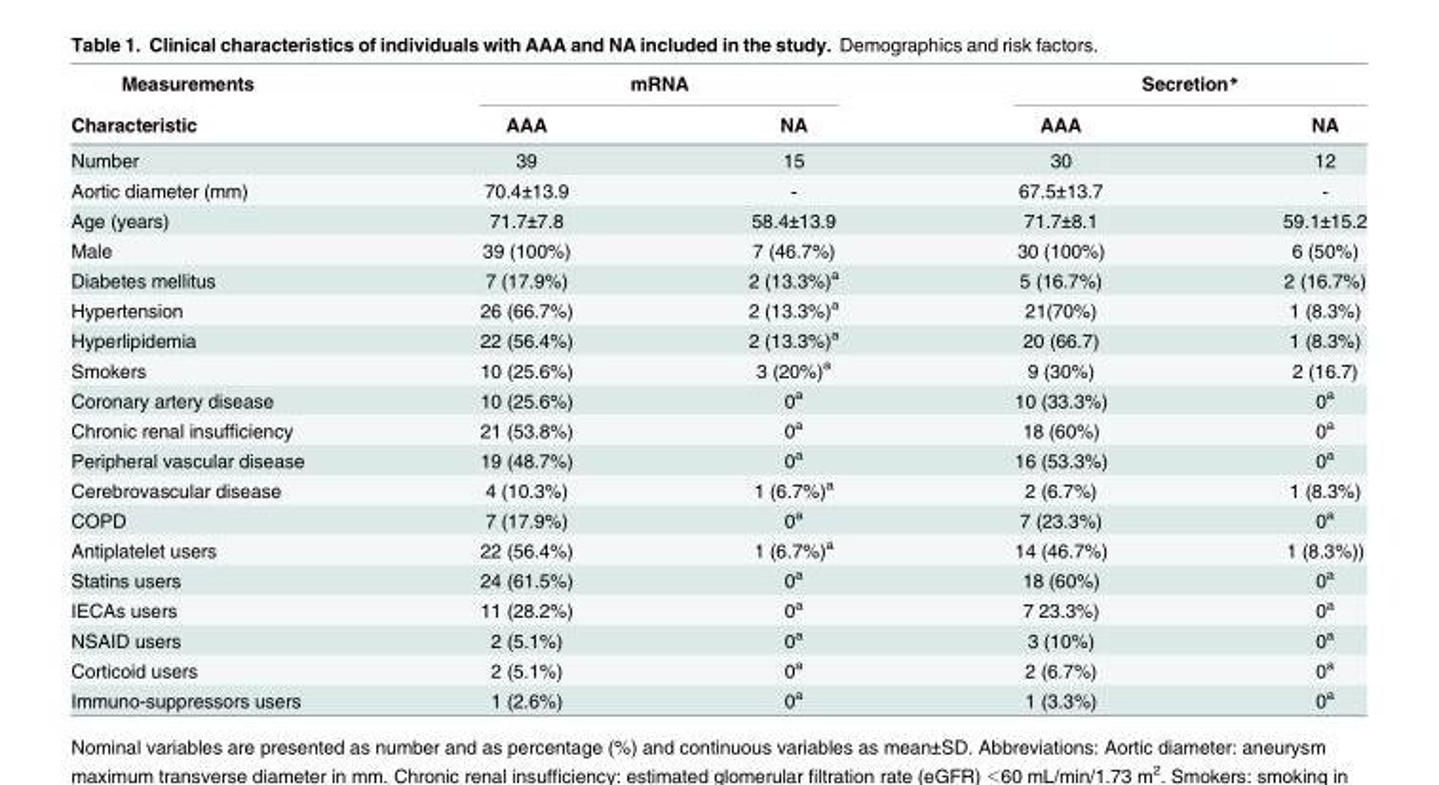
<table><thead><tr><td rowspan="2">Measurements Characteristic</td><td colspan="2">mRNA</td><td colspan="2">Secretion*</td></tr><tr><td>AAA</td><td>NA</td><td>AAA</td><td>NA</td></tr></thead><tbody><tr><td>Number</td><td>39</td><td>15</td><td>30</td><td>12</td></tr><tr><td>Aortic diameter (mm)</td><td>70.4±13.9</td><td>-</td><td>67.5±13.7</td><td>-</td></tr><tr><td>Age (years)</td><td>71.7±7.8</td><td>58.4±13.9</td><td>71.7±8.1</td><td>59.1±15.2</td></tr><tr><td>Male</td><td>39 (100%)</td><td>7 (46.7%)</td><td>30 (100%)</td><td>6 (50%)</td></tr><tr><td>Diabetes mellitus</td><td>7 (17.9%)</td><td>2 (13.3%)<sup>a</sup></td><td>5 (16.7%)</td><td>2 (16.7%)</td></tr><tr><td>Hypertension</td><td>26 (66.7%)</td><td>2 (13.3%)<sup>a</sup></td><td>21(70%)</td><td>1 (8.3%)</td></tr><tr><td>Hyperlipidemia</td><td>22 (56.4%)</td><td>2 (13.3%)<sup>a</sup></td><td>20 (66.7)</td><td>1 (8.3%)</td></tr><tr><td>Smokers</td><td>10 (25.6%)</td><td>3 (20%)<sup>a</sup></td><td>9 (30%)</td><td>2 (16.7)</td></tr><tr><td>Coronary artery disease</td><td>10 (25.6%)</td><td>0<sup>a</sup></td><td>10 (33.3%)</td><td>0<sup>a</sup></td></tr><tr><td>Chronic renal insufficiency</td><td>21 (53.8%)</td><td>0<sup>a</sup></td><td>18 (60%)</td><td>0<sup>a</sup></td></tr><tr><td>Peripheral vascular disease</td><td>19 (48.7%)</td><td>0<sup>a</sup></td><td>16 (53.3%)</td><td>0<sup>a</sup></td></tr><tr><td>Cerebrovascular disease</td><td>4 (10.3%)</td><td>1 (6.7%)<sup>a</sup></td><td>2 (6.7%)</td><td>1 (8.3%)</td></tr><tr><td>COPD</td><td>7 (17.9%)</td><td>0<sup>a</sup></td><td>7 (23.3%)</td><td>0<sup>a</sup></td></tr><tr><td>Antiplatelet users</td><td>22 (56.4%)</td><td>1 (6.7%)<sup>a</sup></td><td>14 (46.7%)</td><td>1 (8.3%))</td></tr><tr><td>Statins users</td><td>24 (61.5%)</td><td>0<sup>a</sup></td><td>18 (60%)</td><td>0<sup>a</sup></td></tr><tr><td>IECAs users</td><td>11 (28.2%)</td><td>0<sup>a</sup></td><td>7 23.3%)</td><td>0<sup>a</sup></td></tr><tr><td>NSAID users</td><td>2 (5.1%)</td><td>0<sup>a</sup></td><td>3 (10%)</td><td>0<sup>a</sup></td></tr><tr><td>Corticoid users</td><td>2 (5.1%)</td><td>0<sup>a</sup></td><td>2 (6.7%)</td><td>0<sup>a</sup></td></tr><tr><td>Immuno-suppressors users</td><td>1 (2.6%)</td><td>0<sup>a</sup></td><td>1 (3.3%)</td><td>0<sup>a</sup></td></tr></tbody></table>